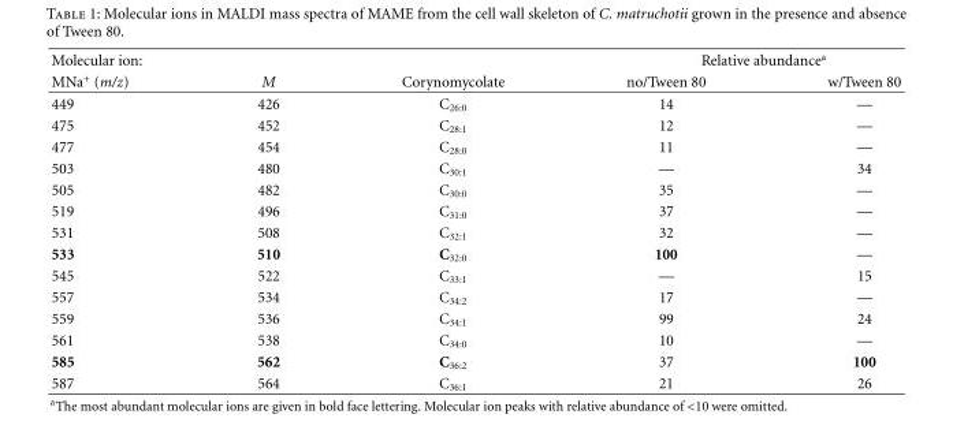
<table><tbody><tr><td>Molecular ion:</td><td></td><td></td><td colspan="2">Relative abundance<sup>a</sup></td></tr><tr><td>MNa<sup>+</sup> (m/z)</td><td>M</td><td>Corynomycolate</td><td>no/Tween 80</td><td>w/Tween 80</td></tr><tr><td>449</td><td>426</td><td>C<sub>26:0</sub></td><td>14</td><td>—</td></tr><tr><td>475</td><td>452</td><td>C<sub>28:1</sub></td><td>12</td><td>—</td></tr><tr><td>477</td><td>454</td><td>C<sub>28:0</sub></td><td>11</td><td>—</td></tr><tr><td>503</td><td>480</td><td>C<sub>30:1</sub></td><td>—</td><td>34</td></tr><tr><td>505</td><td>482</td><td>C<sub>30:0</sub></td><td>35</td><td>—</td></tr><tr><td>519</td><td>496</td><td>C<sub>31:0</sub></td><td>37</td><td>—</td></tr><tr><td>531</td><td>508</td><td>C<sub>32:1</sub></td><td>32</td><td>—</td></tr><tr><td>533</td><td>510</td><td>C<sub>32:0</sub></td><td>100</td><td>—</td></tr><tr><td>545</td><td>522</td><td>C<sub>33:1</sub></td><td>—</td><td>15</td></tr><tr><td>557</td><td>534</td><td>C<sub>34:2</sub></td><td>17</td><td>—</td></tr><tr><td>559</td><td>536</td><td>C<sub>34:1</sub></td><td>99</td><td>24</td></tr><tr><td>561</td><td>538</td><td>C<sub>34:0</sub></td><td>10</td><td>—</td></tr><tr><td>585</td><td>562</td><td>C<sub>36:2</sub></td><td>37</td><td>100</td></tr><tr><td>587</td><td>564</td><td>C<sub>36:1</sub></td><td>21</td><td>26</td></tr></tbody></table>